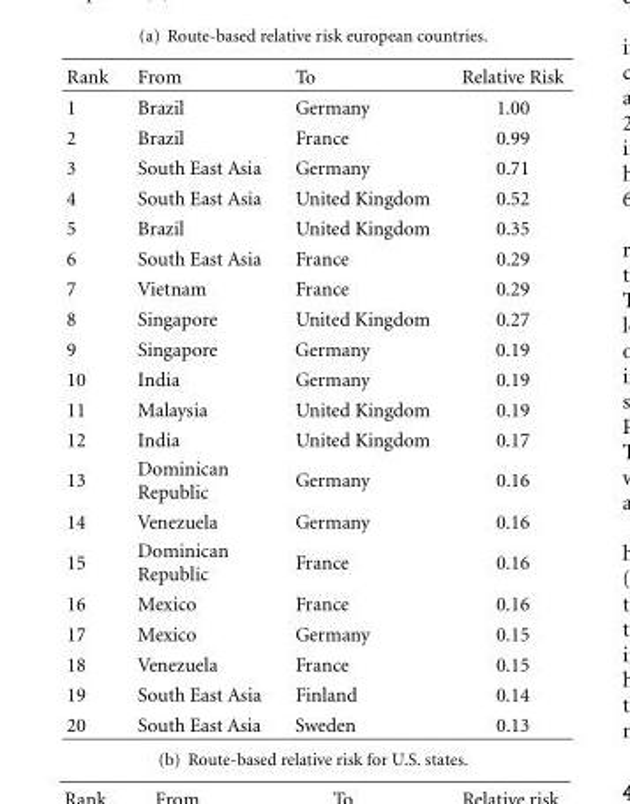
<table><thead><tr><td>Rank</td><td>From</td><td>To</td><td>Relative Risk</td></tr></thead><tbody><tr><td>1</td><td>Brazil</td><td>Germany</td><td>1.00</td></tr><tr><td>2</td><td>Brazil</td><td>France</td><td>0.99</td></tr><tr><td>3</td><td>South East Asia</td><td>Germany</td><td>0.71</td></tr><tr><td>4</td><td>South East Asia</td><td>United Kingdom</td><td>0.52</td></tr><tr><td>5</td><td>Brazil</td><td>United Kingdom</td><td>0.35</td></tr><tr><td>6</td><td>South East Asia</td><td>France</td><td>0.29</td></tr><tr><td>7</td><td>Vietnam</td><td>France</td><td>0.29</td></tr><tr><td>8</td><td>Singapore</td><td>United Kingdom</td><td>0.27</td></tr><tr><td>9</td><td>Singapore</td><td>Germany</td><td>0.19</td></tr><tr><td>10</td><td>India</td><td>Germany</td><td>0.19</td></tr><tr><td>11</td><td>Malaysia</td><td>United Kingdom</td><td>0.19</td></tr><tr><td>12</td><td>India</td><td>United Kingdom</td><td>0.17</td></tr><tr><td>13</td><td>Dominican Republic</td><td>Germany</td><td>0.16</td></tr><tr><td>14</td><td>Venezuela</td><td>Germany</td><td>0.16</td></tr><tr><td>15</td><td>Dominican Republic</td><td>France</td><td>0.16</td></tr><tr><td>16</td><td>Mexico</td><td>France</td><td>0.16</td></tr><tr><td>17</td><td>Mexico</td><td>Germany</td><td>0.15</td></tr><tr><td>18</td><td>Venezuela</td><td>France</td><td>0.15</td></tr><tr><td>19</td><td>South East Asia</td><td>Finland</td><td>0.14</td></tr><tr><td>20</td><td>South East Asia</td><td>Sweden</td><td>0.13</td></tr></tbody></table>